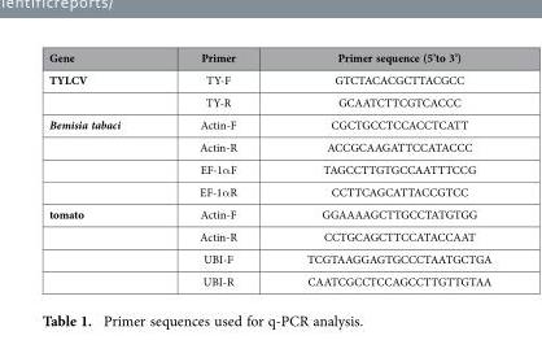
<table><thead><tr><td>Gene</td><td>Primer</td><td>Primer sequence (5’to 3’)</td></tr></thead><tbody><tr><td rowspan="2">TYLCV</td><td>TY-F</td><td>GTCTACACGCTTACGCC</td></tr><tr><td>TY-R</td><td>GCAATCTTCGTCACCC</td></tr><tr><td rowspan="4">Bemisia tabaci</td><td>Actin-F</td><td>CGCTGCCTCCACCTCATT</td></tr><tr><td>Actin-R</td><td>ACCGCAAGATTCCATACCC</td></tr><tr><td>EF-1α F</td><td>TAGCCTTGTGCCAATTTCCG</td></tr><tr><td>EF-1α R</td><td>CCTTCAGCATTACCGTCC</td></tr><tr><td rowspan="4">tomato</td><td>Actin-F</td><td>GGAAAAGCTTGCCTATGTGG</td></tr><tr><td>Actin-R</td><td>CCTGCAGCTTCCATACCAAT</td></tr><tr><td>UBI-F</td><td>TCGTAAGGAGTGCCCTAATGCTGA</td></tr><tr><td>UBI-R</td><td>CAATCGCCTCCAGCCTTGTTGTAA</td></tr></tbody></table>